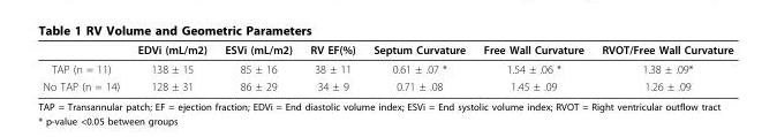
<table><thead><tr><td></td><td>EDVi (mL/m2)</td><td>ESVi (mL/m2)</td><td>RV EF(%)</td><td>Septum Curvature</td><td>Free Wall Curvature</td><td>RVOT/Free Wall Curvature</td></tr></thead><tbody><tr><td>TAP (n = 11)</td><td>138 ± 15</td><td>85 ± 16</td><td>38 ± 11</td><td>0.61 ± .07 *</td><td>1.54 ± .06 *</td><td>1.38 ± .09*</td></tr><tr><td>No TAP (n = 14)</td><td>128 ± 31</td><td>86 ± 29</td><td>34 ± 9</td><td>0.71 ± .08</td><td>1.45 ± .09</td><td>1.26 ± .09</td></tr></tbody></table>